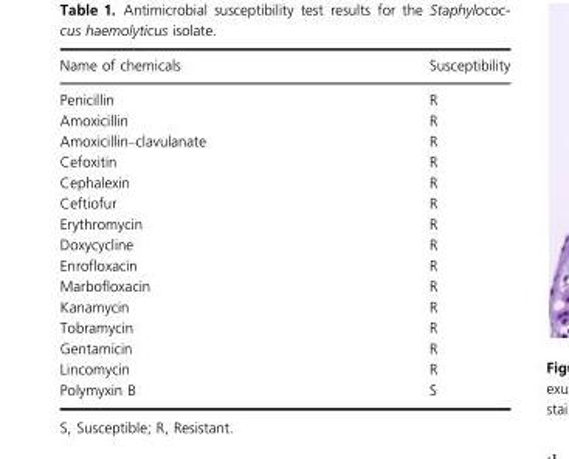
<table><thead><tr><td>Name of chemicals</td><td>Susceptibility</td></tr></thead><tbody><tr><td>Penicillin</td><td>R</td></tr><tr><td>Amoxicillin</td><td>R</td></tr><tr><td>Amoxicillin–clavulanate</td><td>R</td></tr><tr><td>Cefoxitin</td><td>R</td></tr><tr><td>Cephalexin</td><td>R</td></tr><tr><td>Ceftiofur</td><td>R</td></tr><tr><td>Erythromycin</td><td>R</td></tr><tr><td>Doxycycline</td><td>R</td></tr><tr><td>Enrofloxacin</td><td>R</td></tr><tr><td>Marbofloxacin</td><td>R</td></tr><tr><td>Kanamycin</td><td>R</td></tr><tr><td>Tobramycin</td><td>R</td></tr><tr><td>Gentamicin</td><td>R</td></tr><tr><td>Lincomycin</td><td>R</td></tr><tr><td>Polymyxin B</td><td>S</td></tr></tbody></table>